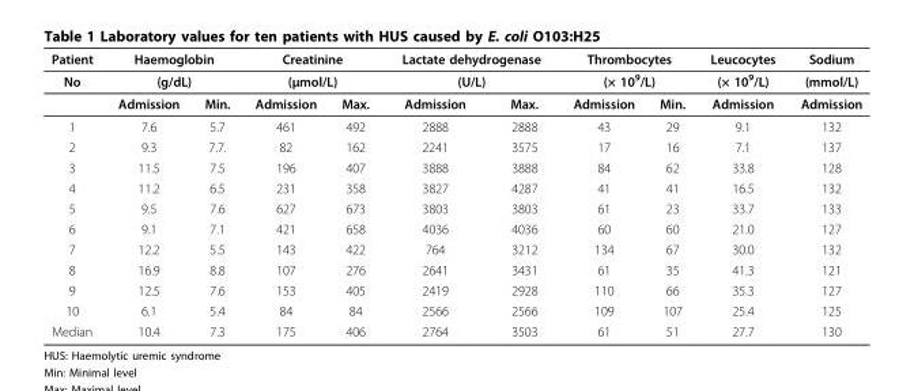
<table><thead><tr><td rowspan="3">Patient No</td><td rowspan="2" colspan="2">Haemoglobin (g/dL)</td><td rowspan="2" colspan="2">Creatinine (μmol/L)</td><td rowspan="2" colspan="2">Lactate dehydrogenase (U/L)</td><td rowspan="2" colspan="2">Thrombocytes (× 109/L)</td><td rowspan="3">Leucocytes (× 109/L) Admission</td><td rowspan="3">Sodium (mmol/L) Admission</td></tr><tr></tr><tr><td>Admission</td><td>Min.</td><td>Admission</td><td>Max.</td><td>Admission</td><td>Max.</td><td>Admission</td><td>Min.</td></tr></thead><tbody><tr><td>1</td><td>7.6</td><td>5.7</td><td>461</td><td>492</td><td>2888</td><td>2888</td><td>43</td><td>29</td><td>9.1</td><td>132</td></tr><tr><td>2</td><td>9.3</td><td>7.7.</td><td>82</td><td>162</td><td>2241</td><td>3575</td><td>17</td><td>16</td><td>7.1</td><td>137</td></tr><tr><td>3</td><td>11.5</td><td>7.5</td><td>196</td><td>407</td><td>3888</td><td>3888</td><td>84</td><td>62</td><td>33.8</td><td>128</td></tr><tr><td>4</td><td>11.2</td><td>6.5</td><td>231</td><td>358</td><td>3827</td><td>4287</td><td>41</td><td>41</td><td>16.5</td><td>132</td></tr><tr><td>5</td><td>9.5</td><td>7.6</td><td>627</td><td>673</td><td>3803</td><td>3803</td><td>61</td><td>23</td><td>33.7</td><td>133</td></tr><tr><td>6</td><td>9.1</td><td>7.1</td><td>421</td><td>658</td><td>4036</td><td>4036</td><td>60</td><td>60</td><td>21.0</td><td>127</td></tr><tr><td>7</td><td>12.2</td><td>5.5</td><td>143</td><td>422</td><td>764</td><td>3212</td><td>134</td><td>67</td><td>30.0</td><td>132</td></tr><tr><td>8</td><td>16.9</td><td>8.8</td><td>107</td><td>276</td><td>2641</td><td>3431</td><td>61</td><td>35</td><td>41.3</td><td>121</td></tr><tr><td>9</td><td>12.5</td><td>7.6</td><td>153</td><td>405</td><td>2419</td><td>2928</td><td>110</td><td>66</td><td>35.3</td><td>127</td></tr><tr><td>10</td><td>6.1</td><td>5.4</td><td>84</td><td>84</td><td>2566</td><td>2566</td><td>109</td><td>107</td><td>25.4</td><td>125</td></tr><tr><td>Median</td><td>10.4</td><td>7.3</td><td>175</td><td>406</td><td>2764</td><td>3503</td><td>61</td><td>51</td><td>27.7</td><td>130</td></tr></tbody></table>